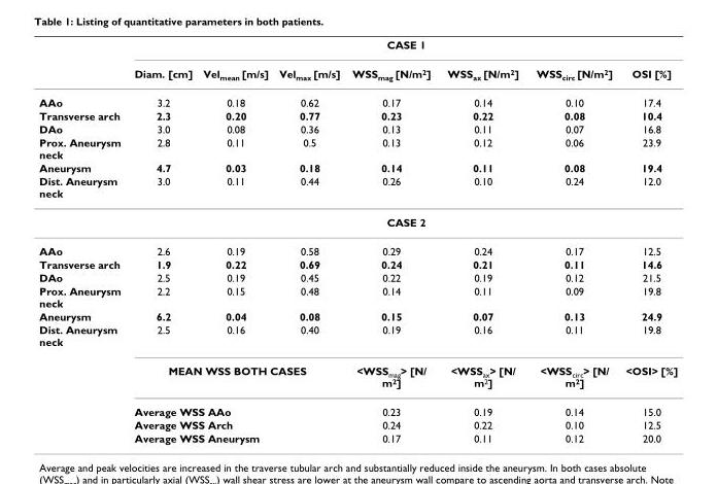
<table><thead><tr><td rowspan="2"></td><td colspan="7">CASE 1</td></tr><tr><td>Diam. [cm]</td><td>Vel<sub>mean</sub> [m/s]</td><td>Vel<sub>max</sub> [m/s]</td><td>WSS<sub>mag</sub> [N/m<sup>2</sup>]</td><td>WSS<sub>ax</sub> [N/m<sup>2</sup>]</td><td>WSS<sub>circ</sub> [N/m<sup>2</sup>]</td><td>OSI [%]</td></tr></thead><tbody><tr><td>AAo</td><td>3.2</td><td>0.18</td><td>0.62</td><td>0.17</td><td>0.14</td><td>0.10</td><td>17.4</td></tr><tr><td>Transverse arch</td><td>2.3</td><td>0.20</td><td>0.77</td><td>0.23</td><td>0.22</td><td>0.08</td><td>10.4</td></tr><tr><td>DAo</td><td>3.0</td><td>0.08</td><td>0.36</td><td>0.13</td><td>0.11</td><td>0.07</td><td>16.8</td></tr><tr><td>Prox. Aneurysm neck</td><td>2.8</td><td>0.11</td><td>0.5</td><td>0.13</td><td>0.12</td><td>0.06</td><td>23.9</td></tr><tr><td>Aneurysm</td><td>4.7</td><td>0.03</td><td>0.18</td><td>0.14</td><td>0.11</td><td>0.08</td><td>19.4</td></tr><tr><td rowspan="2">Dist. Aneurysm neck</td><td>3.0</td><td>0.11</td><td>0.44</td><td>0.26</td><td>0.10</td><td>0.24</td><td>12.0</td></tr><tr><td colspan="7">CASE 2</td></tr><tr><td>AAo</td><td>2.6</td><td>0.19</td><td>0.58</td><td>0.29</td><td>0.24</td><td>0.17</td><td>12.5</td></tr><tr><td>Transverse arch</td><td>1.9</td><td>0.22</td><td>0.69</td><td>0.24</td><td>0.21</td><td>0.11</td><td>14.6</td></tr><tr><td>DAo</td><td>2.5</td><td>0.19</td><td>0.45</td><td>0.22</td><td>0.19</td><td>0.12</td><td>21.5</td></tr><tr><td>Prox. Aneurysm neck</td><td>2.2</td><td>0.15</td><td>0.48</td><td>0.14</td><td>0.11</td><td>0.09</td><td>19.8</td></tr><tr><td>Aneurysm</td><td>6.2</td><td>0.04</td><td>0.08</td><td>0.15</td><td>0.07</td><td>0.13</td><td>24.9</td></tr><tr><td rowspan="5">Dist. Aneurysm neck</td><td>2.5</td><td>0.16</td><td>0.40</td><td>0.19</td><td>0.16</td><td>0.11</td><td>19.8</td></tr><tr><td colspan="3">MEAN WSS BOTH CASES</td><td>&lt;WSS<sub>mag</sub>&gt; [N/ m<sup>2</sup>]</td><td>&lt;WSS<sub>ax</sub>&gt; [N/ m<sup>2</sup>]</td><td>&lt;WSS<sub>circ</sub>&gt; [N/ m<sup>2</sup>]</td><td>&lt;OSI&gt; [%]</td></tr><tr><td colspan="3">Average WSS AAo</td><td>0.23</td><td>0.19</td><td>0.14</td><td>15.0</td></tr><tr><td colspan="3">Average WSS Arch</td><td>0.24</td><td>0.22</td><td>0.10</td><td>12.5</td></tr><tr><td colspan="3">Average WSS Aneurysm</td><td>0.17</td><td>0.11</td><td>0.12</td><td>20.0</td></tr></tbody></table>